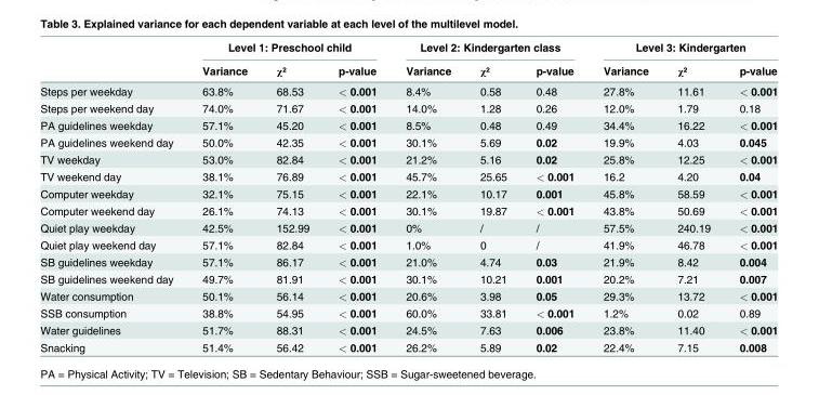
<table><thead><tr><td rowspan="2"></td><td colspan="3">Level 1: Preschool child</td><td colspan="3">Level 2: Kindergarten class</td><td colspan="3">Level 3: Kindergarten</td></tr><tr><td>Variance</td><td>χ²</td><td>p-value</td><td>Variance</td><td>χ²</td><td>p-value</td><td>Variance</td><td>χ²</td><td>p-value</td></tr></thead><tbody><tr><td>Steps per weekday</td><td>63.8%</td><td>68.53</td><td>&lt; 0.001</td><td>8.4%</td><td>0.58</td><td>0.48</td><td>27.8%</td><td>11.61</td><td>&lt; 0.001</td></tr><tr><td>Steps per weekend day</td><td>74.0%</td><td>71.67</td><td>&lt; 0.001</td><td>14.0%</td><td>1.28</td><td>0.26</td><td>12.0%</td><td>1.79</td><td>0.18</td></tr><tr><td>PA guidelines weekday</td><td>57.1%</td><td>45.20</td><td>&lt; 0.001</td><td>8.5%</td><td>0.48</td><td>0.49</td><td>34.4%</td><td>16.22</td><td>&lt; 0.001</td></tr><tr><td>PA guidelines weekend day</td><td>50.0%</td><td>42.35</td><td>&lt; 0.001</td><td>30.1%</td><td>5.69</td><td>0.02</td><td>19.9%</td><td>4.03</td><td>0.045</td></tr><tr><td>TV weekday</td><td>53.0%</td><td>82.84</td><td>&lt; 0.001</td><td>21.2%</td><td>5.16</td><td>0.02</td><td>25.8%</td><td>12.25</td><td>&lt; 0.001</td></tr><tr><td>TV weekend day</td><td>38.1%</td><td>76.89</td><td>&lt; 0.001</td><td>45.7%</td><td>25.65</td><td>&lt; 0.001</td><td>16.2</td><td>4.20</td><td>0.04</td></tr><tr><td>Computer weekday</td><td>32.1%</td><td>75.15</td><td>&lt; 0.001</td><td>22.1%</td><td>10.17</td><td>0.001</td><td>45.8%</td><td>58.59</td><td>&lt; 0.001</td></tr><tr><td>Computer weekend day</td><td>26.1%</td><td>74.13</td><td>&lt; 0.001</td><td>30.1%</td><td>19.87</td><td>&lt; 0.001</td><td>43.8%</td><td>50.69</td><td>&lt; 0.001</td></tr><tr><td>Quiet play weekday</td><td>42.5%</td><td>152.99</td><td>&lt; 0.001</td><td>0%</td><td>/</td><td>/</td><td>57.5%</td><td>240.19</td><td>&lt; 0.001</td></tr><tr><td>Quiet play weekend day</td><td>57.1%</td><td>82.84</td><td>&lt; 0.001</td><td>1.0%</td><td>0</td><td>/</td><td>41.9%</td><td>46.78</td><td>&lt; 0.001</td></tr><tr><td>SB guidelines weekday</td><td>57.1%</td><td>86.17</td><td>&lt; 0.001</td><td>21.0%</td><td>4.74</td><td>0.03</td><td>21.9%</td><td>8.42</td><td>0.004</td></tr><tr><td>SB guidelines weekend day</td><td>49.7%</td><td>81.91</td><td>&lt; 0.001</td><td>30.1%</td><td>10.21</td><td>0.001</td><td>20.2%</td><td>7.21</td><td>0.007</td></tr><tr><td>Water consumption</td><td>50.1%</td><td>56.14</td><td>&lt; 0.001</td><td>20.6%</td><td>3.98</td><td>0.05</td><td>29.3%</td><td>13.72</td><td>&lt; 0.001</td></tr><tr><td>SSB consumption</td><td>38.8%</td><td>54.95</td><td>&lt; 0.001</td><td>60.0%</td><td>33.81</td><td>&lt; 0.001</td><td>1.2%</td><td>0.02</td><td>0.89</td></tr><tr><td>Water guidelines</td><td>51.7%</td><td>88.31</td><td>&lt; 0.001</td><td>24.5%</td><td>7.63</td><td>0.006</td><td>23.8%</td><td>11.40</td><td>&lt; 0.001</td></tr><tr><td>Snacking</td><td>51.4%</td><td>56.42</td><td>&lt; 0.001</td><td>26.2%</td><td>5.89</td><td>0.02</td><td>22.4%</td><td>7.15</td><td>0.008</td></tr></tbody></table>